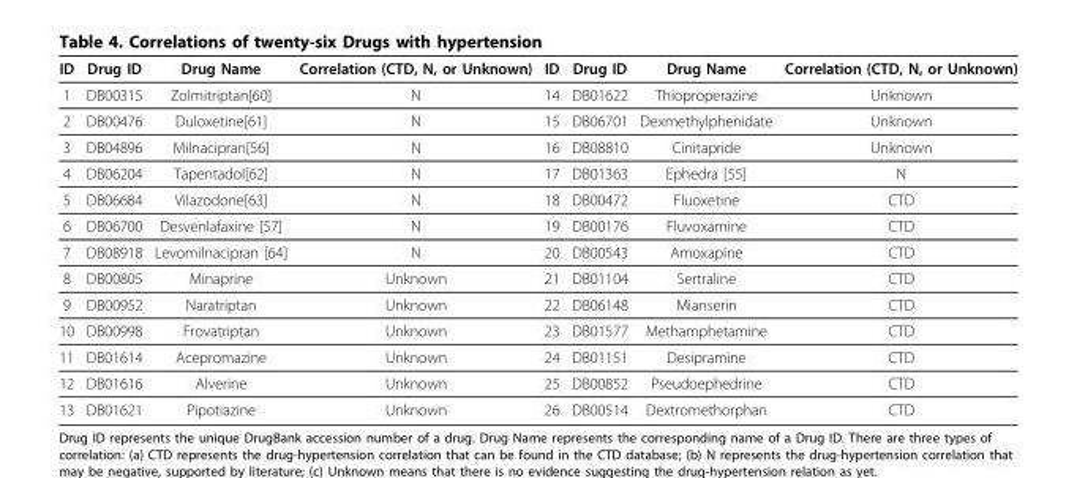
<table><thead><tr><td>ID</td><td>Drug ID</td><td>Drug Name</td><td>Correlation (CTD, N, or Unknown)</td><td>ID</td><td>Drug ID</td><td>Drug Name</td><td>Correlation (CTD, N, or Unknown)</td></tr></thead><tbody><tr><td>1</td><td>DB00315</td><td>Zolmitriptan[60]</td><td>N</td><td>14</td><td>DB01622</td><td>Thioproperazine</td><td>Unknown</td></tr><tr><td>2</td><td>DB00476</td><td>Duloxetine[61]</td><td>N</td><td>15</td><td>DB06701</td><td>Dexmethylphenidate</td><td>Unknown</td></tr><tr><td>3</td><td>DB04896</td><td>Milnacipran[56]</td><td>N</td><td>16</td><td>DB08810</td><td>Cinitapride</td><td>Unknown</td></tr><tr><td>4</td><td>DB06204</td><td>Tapentadol[62]</td><td>N</td><td>17</td><td>DB01363</td><td>Ephedra [55]</td><td>N</td></tr><tr><td>5</td><td>DB06684</td><td>Vilazodone[63]</td><td>N</td><td>18</td><td>DB00472</td><td>Fluoxetine</td><td>CTD</td></tr><tr><td>6</td><td>DB06700</td><td>Desvenlafaxine [57]</td><td>N</td><td>19</td><td>DB00176</td><td>Fluvoxamine</td><td>CTD</td></tr><tr><td>7</td><td>DB08918</td><td>Levomilnacipran [64]</td><td>N</td><td>20</td><td>DB00543</td><td>Amoxapine</td><td>CTD</td></tr><tr><td>8</td><td>DB00805</td><td>Minaprine</td><td>Unknown</td><td>21</td><td>DB01104</td><td>Sertraline</td><td>CTD</td></tr><tr><td>9</td><td>DB00952</td><td>Naratriptan</td><td>Unknown</td><td>22</td><td>DB06148</td><td>Mianserin</td><td>CTD</td></tr><tr><td>10</td><td>DB00998</td><td>Frovatriptan</td><td>Unknown</td><td>23</td><td>DB01577</td><td>Methamphetamine</td><td>CTD</td></tr><tr><td>11</td><td>DB01614</td><td>Acepromazine</td><td>Unknown</td><td>24</td><td>DB01151</td><td>Desipramine</td><td>CTD</td></tr><tr><td>12</td><td>DB01616</td><td>Alverine</td><td>Unknown</td><td>25</td><td>DB00852</td><td>Pseudoephedrine</td><td>CTD</td></tr><tr><td>13</td><td>DB01621</td><td>Pipotiazine</td><td>Unknown</td><td>26</td><td>DB00514</td><td>Dextromethorphan</td><td>CTD</td></tr></tbody></table>